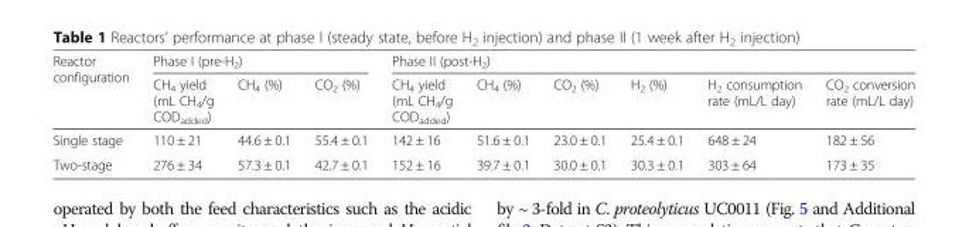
<table><thead><tr><td rowspan="2">Reactor configuration</td><td colspan="3">Phase I (pre-H<sub>2</sub>)</td><td colspan="6">Phase II (post-H<sub>2</sub>)</td></tr><tr><td>CH<sub>4</sub> yield (mL CH<sub>4</sub>/g COD<sub>added</sub>)</td><td>CH<sub>4</sub> (%)</td><td>CO<sub>2</sub> (%)</td><td>CH<sub>4</sub> yield (mL CH<sub>4</sub>/g COD<sub>added</sub>)</td><td>CH<sub>4</sub> (%)</td><td>CO<sub>2</sub> (%)</td><td>H<sub>2</sub> (%)</td><td>H<sub>2</sub> consumption rate (mL/L day)</td><td>CO<sub>2</sub> conversion rate (mL/L day)</td></tr></thead><tbody><tr><td>Single stage</td><td>110 ± 21</td><td>44.6 ± 0.1</td><td>55.4 ± 0.1</td><td>142 ± 16</td><td>51.6 ± 0.1</td><td>23.0 ± 0.1</td><td>25.4 ± 0.1</td><td>648 ± 24</td><td>182 ± 56</td></tr><tr><td>Two-stage</td><td>276 ± 34</td><td>57.3 ± 0.1</td><td>42.7 ± 0.1</td><td>152 ± 16</td><td>39.7 ± 0.1</td><td>30.0 ± 0.1</td><td>30.3 ± 0.1</td><td>303 ± 64</td><td>173 ± 35</td></tr></tbody></table>